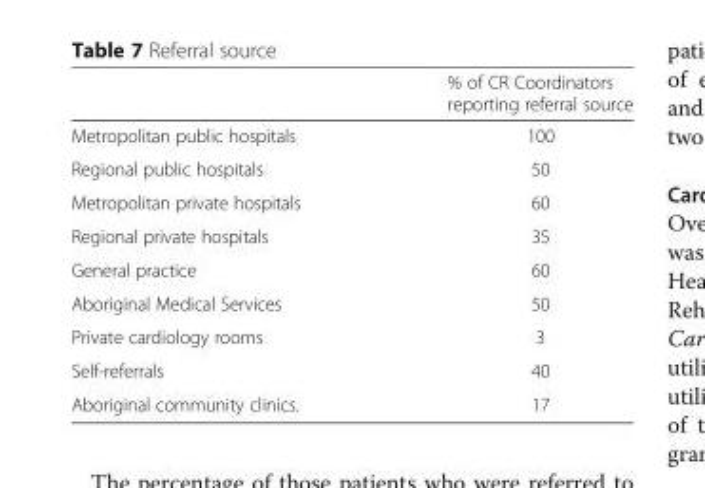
<table><thead><tr><td></td><td>% of CR Coordinators reporting referral source</td></tr></thead><tbody><tr><td>Metropolitan public hospitals</td><td>100</td></tr><tr><td>Regional public hospitals</td><td>50</td></tr><tr><td>Metropolitan private hospitals</td><td>60</td></tr><tr><td>Regional private hospitals</td><td>35</td></tr><tr><td>General practice</td><td>60</td></tr><tr><td>Aboriginal Medical Services</td><td>50</td></tr><tr><td>Private cardiology rooms</td><td>3</td></tr><tr><td>Self-referrals</td><td>40</td></tr><tr><td>Aboriginal community clinics.</td><td>17</td></tr></tbody></table>